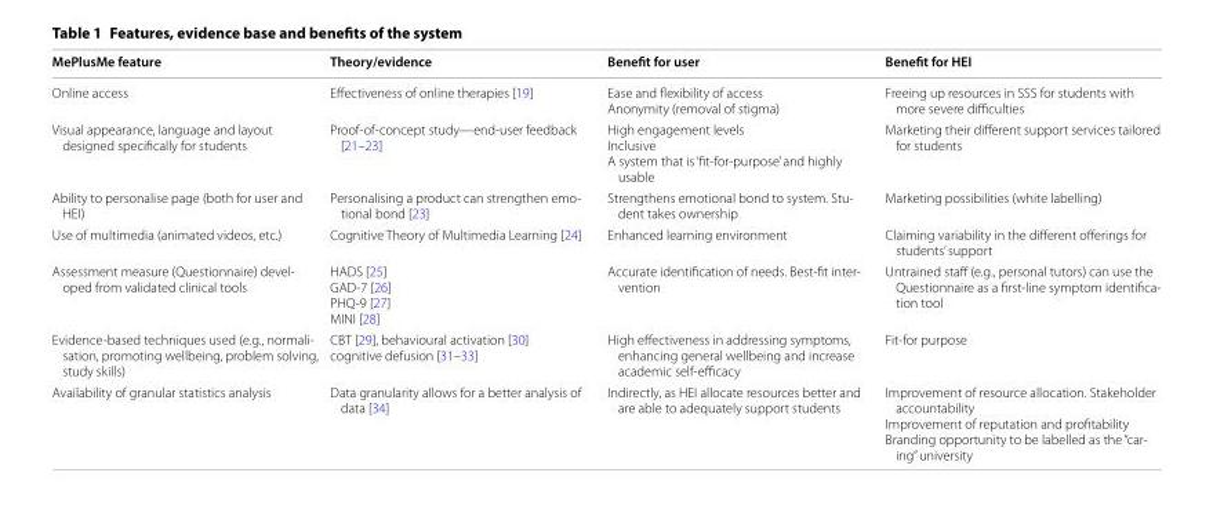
<table><thead><tr><td>MePlusMe feature</td><td>Theory/evidence</td><td>Benefit for user</td><td>Benefit for HEI</td></tr></thead><tbody><tr><td>Online access</td><td>Effectiveness of online therapies [19]</td><td>Ease and flexibility of access Anonymity (removal of stigma)</td><td>Freeing up resources in SSS for students with more severe difficulties</td></tr><tr><td>Visual appearance, language and layout designed specifically for students</td><td>Proof‑of‑concept study—end‑user feedback [21–23]</td><td>High engagement levels Inclusive A system that is ‘fit‑for‑purpose’ and highly usable</td><td>Marketing their different support services tailored for students</td></tr><tr><td>Ability to personalise page (both for user and HEI)</td><td>Personalising a product can strengthen emo‑ tional bond [23]</td><td>Strengthens emotional bond to system. Stu‑ dent takes ownership</td><td>Marketing possibilities (white labelling)</td></tr><tr><td>Use of multimedia (animated videos, etc.)</td><td>Cognitive Theory of Multimedia Learning [24]</td><td>Enhanced learning environment</td><td>Claiming variability in the different offerings for students’ support</td></tr><tr><td>Assessment measure (Questionnaire) devel‑ oped from validated clinical tools</td><td>HADS [25] GAD‑7 [26] PHQ‑9 [27] MINI [28]</td><td>Accurate identification of needs. Best‑fit inter‑ vention</td><td>Untrained staff (e.g., personal tutors) can use the Questionnaire as a first‑line symptom identifica‑ tion tool</td></tr><tr><td>Evidence‑based techniques used (e.g., normali‑ sation, promoting wellbeing, problem solving, study skills)</td><td>CBT [29], behavioural activation [30] cognitive defusion [31–33]</td><td>High effectiveness in addressing symptoms, enhancing general wellbeing and increase academic self‑efficacy</td><td>Fit‑for purpose</td></tr><tr><td>Availability of granular statistics analysis</td><td>Data granularity allows for a better analysis of data [34]</td><td>Indirectly, as HEI allocate resources better and are able to adequately support students</td><td>Improvement of resource allocation. Stakeholder accountability Improvement of reputation and profitability Branding opportunity to be labelled as the “car‑ ing” university</td></tr></tbody></table>